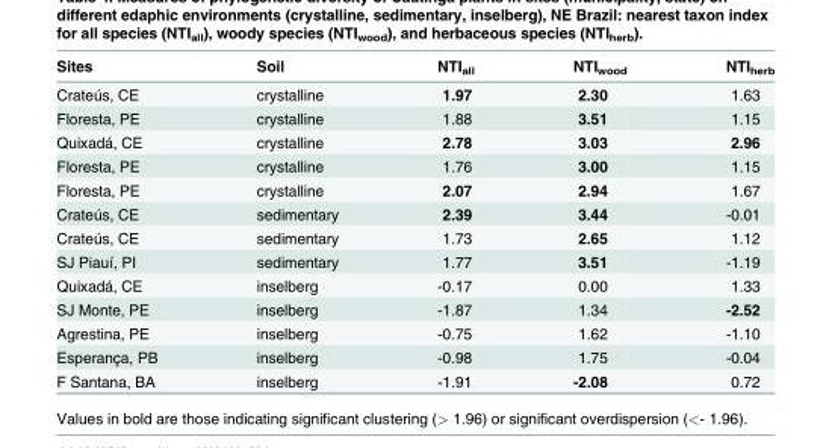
<table><thead><tr><td>Sites</td><td>Soil</td><td>NTI<sub>all</sub></td><td>NTI<sub>wood</sub></td><td>NTI<sub>herb</sub></td></tr></thead><tbody><tr><td>Crateús, CE</td><td>crystalline</td><td>1.97</td><td>2.30</td><td>1.63</td></tr><tr><td>Floresta, PE</td><td>crystalline</td><td>1.88</td><td>3.51</td><td>1.15</td></tr><tr><td>Quixadá, CE</td><td>crystalline</td><td>2.78</td><td>3.03</td><td>2.96</td></tr><tr><td>Floresta, PE</td><td>crystalline</td><td>1.76</td><td>3.00</td><td>1.15</td></tr><tr><td>Floresta, PE</td><td>crystalline</td><td>2.07</td><td>2.94</td><td>1.67</td></tr><tr><td>Crateús, CE</td><td>sedimentary</td><td>2.39</td><td>3.44</td><td>-0.01</td></tr><tr><td>Crateús, CE</td><td>sedimentary</td><td>1.73</td><td>2.65</td><td>1.12</td></tr><tr><td>SJ Piauí, PI</td><td>sedimentary</td><td>1.77</td><td>3.51</td><td>-1.19</td></tr><tr><td>Quixadá, CE</td><td>inselberg</td><td>-0.17</td><td>0.00</td><td>1.33</td></tr><tr><td>SJ Monte, PE</td><td>inselberg</td><td>-1.87</td><td>1.34</td><td>-2.52</td></tr><tr><td>Agrestina, PE</td><td>inselberg</td><td>-0.75</td><td>1.62</td><td>-1.10</td></tr><tr><td>Esperança, PB</td><td>inselberg</td><td>-0.98</td><td>1.75</td><td>-0.04</td></tr><tr><td>F Santana, BA</td><td>inselberg</td><td>-1.91</td><td>-2.08</td><td>0.72</td></tr></tbody></table>